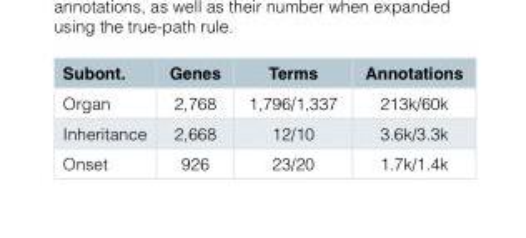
<table><thead><tr><td>Subont.</td><td>Genes</td><td>Terms</td><td>Annotations</td></tr></thead><tbody><tr><td>Organ</td><td>2,768</td><td>1,796/1,337</td><td>213k/60k</td></tr><tr><td>Inheritance</td><td>2,668</td><td>12/10</td><td>3.6k/3.3k</td></tr><tr><td>Onset</td><td>926</td><td>23/20</td><td>1.7k/1.4k</td></tr></tbody></table>